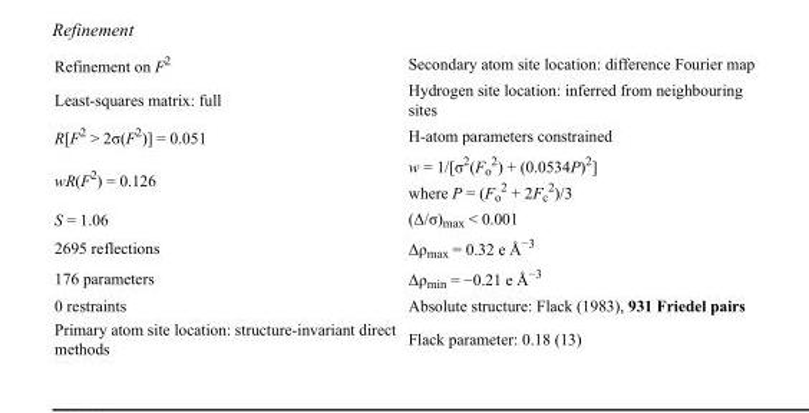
<table><tbody><tr><td>Refinement on F<sup>2</sup></td><td>Secondary atom site location: difference Fourier map</td></tr><tr><td>Least-squares matrix: full</td><td>Hydrogen site location: inferred from neighbouring sites</td></tr><tr><td>R[F<sup>2</sup> &gt; 2σ(F<sup>2</sup>)] = 0.051</td><td>H-atom parameters constrained</td></tr><tr><td>wR(F<sup>2</sup>) = 0.126</td><td>w = 1/[σ<sup>2</sup>(F<sub>o</sub> <sup>2</sup>) + (0.0534P)<sup>2</sup>] where P = (F<sub>o</sub> <sup>2</sup> + 2F<sub>c</sub> <sup>2</sup>)/3</td></tr><tr><td>S = 1.06</td><td>(Δ/σ)<sub>max</sub> &lt; 0.001</td></tr><tr><td>2695 reflections</td><td>Δρ<sub>max</sub> = 0.32 e Å<sup>−3</sup></td></tr><tr><td>176 parameters</td><td>Δρ<sub>min</sub> = −0.21 e Å<sup>−3</sup></td></tr><tr><td>0 restraints</td><td>Absolute structure: Flack (1983), 931 Friedel pairs</td></tr><tr><td>Primary atom site location: structure-invariant direct methods</td><td>Flack parameter: 0.18 (13)</td></tr></tbody></table>